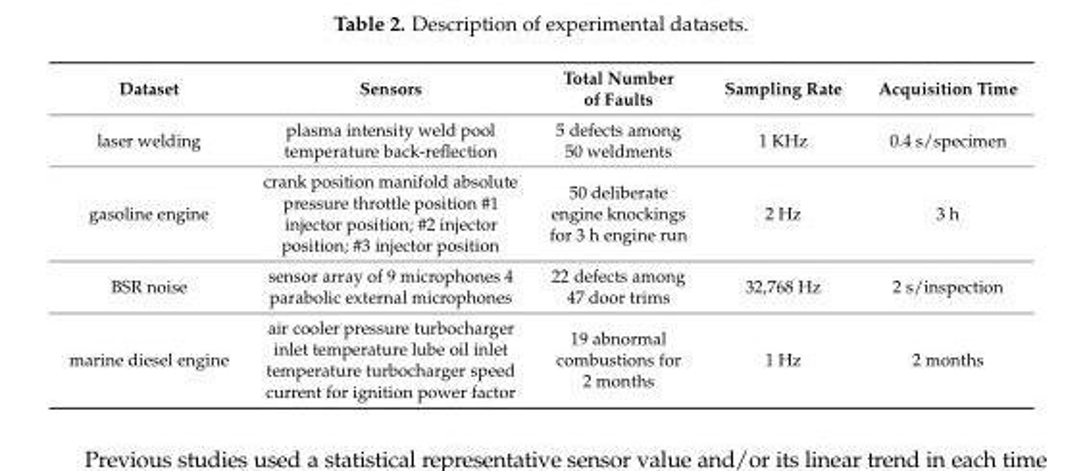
<table><thead><tr><td>Dataset</td><td>Sensors</td><td>Total Number of Faults</td><td>Sampling Rate</td><td>Acquisition Time</td></tr></thead><tbody><tr><td>laser welding</td><td>plasma intensity weld pool temperature back-reflection</td><td>5 defects among 50 weldments</td><td>1 KHz</td><td>0.4 s/specimen</td></tr><tr><td>gasoline engine</td><td>crank position manifold absolute pressure throttle position #1 injector position; #2 injector position; #3 injector position</td><td>50 deliberate engine knockings for 3 h engine run</td><td>2 Hz</td><td>3 h</td></tr><tr><td>BSR noise</td><td>sensor array of 9 microphones 4 parabolic external microphones</td><td>22 defects among 47 door trims</td><td>32,768 Hz</td><td>2 s/inspection</td></tr><tr><td>marine diesel engine</td><td>air cooler pressure turbocharger inlet temperature lube oil inlet temperature turbocharger speed current for ignition power factor</td><td>19 abnormal combustions for 2 months</td><td>1 Hz</td><td>2 months</td></tr></tbody></table>